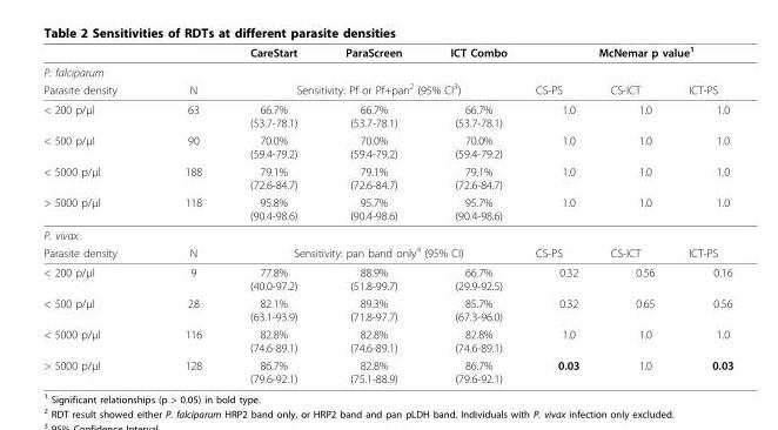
<table><thead><tr><td rowspan="2">P. falciparum</td><td rowspan="2"></td><td rowspan="2">CareStart</td><td rowspan="2">ParaScreen</td><td rowspan="2">ICT Combo</td><td colspan="3">McNemar p value<sup>1</sup></td></tr><tr><td></td><td></td><td></td></tr></thead><tbody><tr><td>Parasite density</td><td>N</td><td colspan="3">Sensitivity: Pf or Pf+pan<sup>2</sup> (95% CI<sup>3</sup>)</td><td>CS-PS</td><td>CS-ICT</td><td>ICT-PS</td></tr><tr><td>&lt; 200 p/μl</td><td>63</td><td>66.7% (53.7-78.1)</td><td>66.7% (53.7-78.1)</td><td>66.7% (53.7-78.1)</td><td>1.0</td><td>1.0</td><td>1.0</td></tr><tr><td>&lt; 500 p/μl</td><td>90</td><td>70.0% (59.4-79.2)</td><td>70.0% (59.4-79.2)</td><td>70.0% (59.4-79.2)</td><td>1.0</td><td>1.0</td><td>1.0</td></tr><tr><td>&lt; 5000 p/μl</td><td>188</td><td>79.1% (72.6-84.7)</td><td>79.1% (72.6-84.7)</td><td>79.1% (72.6-84.7)</td><td>1.0</td><td>1.0</td><td>1.0</td></tr><tr><td>&gt; 5000 p/μl</td><td>118</td><td>95.8% (90.4-98.6)</td><td>95.7% (90.4-98.6)</td><td>95.7% (90.4-98.6)</td><td>1.0</td><td>1.0</td><td>1.0</td></tr><tr><td colspan="8">P. vivax</td></tr><tr><td>Parasite density</td><td>N</td><td colspan="3">Sensitivity: pan band only<sup>4</sup> (95% CI)</td><td>CS-PS</td><td>CS-ICT</td><td>ICT-PS</td></tr><tr><td>&lt; 200 p/μl</td><td>9</td><td>77.8% (40.0-97.2)</td><td>88.9% (51.8-99.7)</td><td>66.7% (29.9-92.5)</td><td>0.32</td><td>0.56</td><td>0.16</td></tr><tr><td>&lt; 500 p/μl</td><td>28</td><td>82.1% (63.1-93.9)</td><td>89.3% (71.8-97.7)</td><td>85.7% (67.3-96.0)</td><td>0.32</td><td>0.65</td><td>0.56</td></tr><tr><td>&lt; 5000 p/μl</td><td>116</td><td>82.8% (74.6-89.1)</td><td>82.8% (74.6-89.1)</td><td>82.8% (74.6-89.1)</td><td>1.0</td><td>1.0</td><td>1.0</td></tr><tr><td>&gt; 5000 p/μl</td><td>128</td><td>86.7% (79.6-92.1)</td><td>82.8% (75.1-88.9)</td><td>86.7% (79.6-92.1)</td><td>0.03</td><td>1.0</td><td>0.03</td></tr></tbody></table>